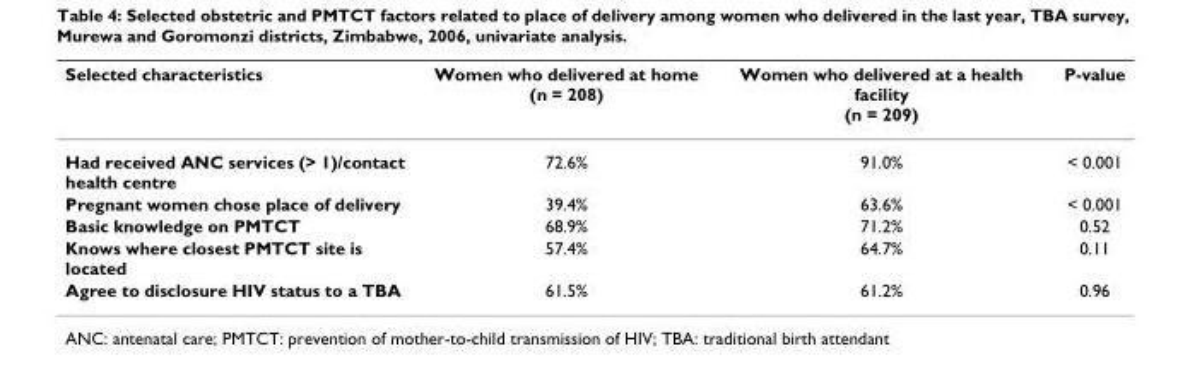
<table><thead><tr><td>Selected characteristics</td><td>Women who delivered at home (n = 208)</td><td>Women who delivered at a health facility (n = 209)</td><td>P-value</td></tr></thead><tbody><tr><td>Had received ANC services (&gt; 1)/contact health centre</td><td>72.6%</td><td>91.0%</td><td>&lt; 0.001</td></tr><tr><td>Pregnant women chose place of delivery</td><td>39.4%</td><td>63.6%</td><td>&lt; 0.001</td></tr><tr><td>Basic knowledge on PMTCT</td><td>68.9%</td><td>71.2%</td><td>0.52</td></tr><tr><td>Knows where closest PMTCT site is located</td><td>57.4%</td><td>64.7%</td><td>0.11</td></tr><tr><td>Agree to disclosure HIV status to a TBA</td><td>61.5%</td><td>61.2%</td><td>0.96</td></tr></tbody></table>